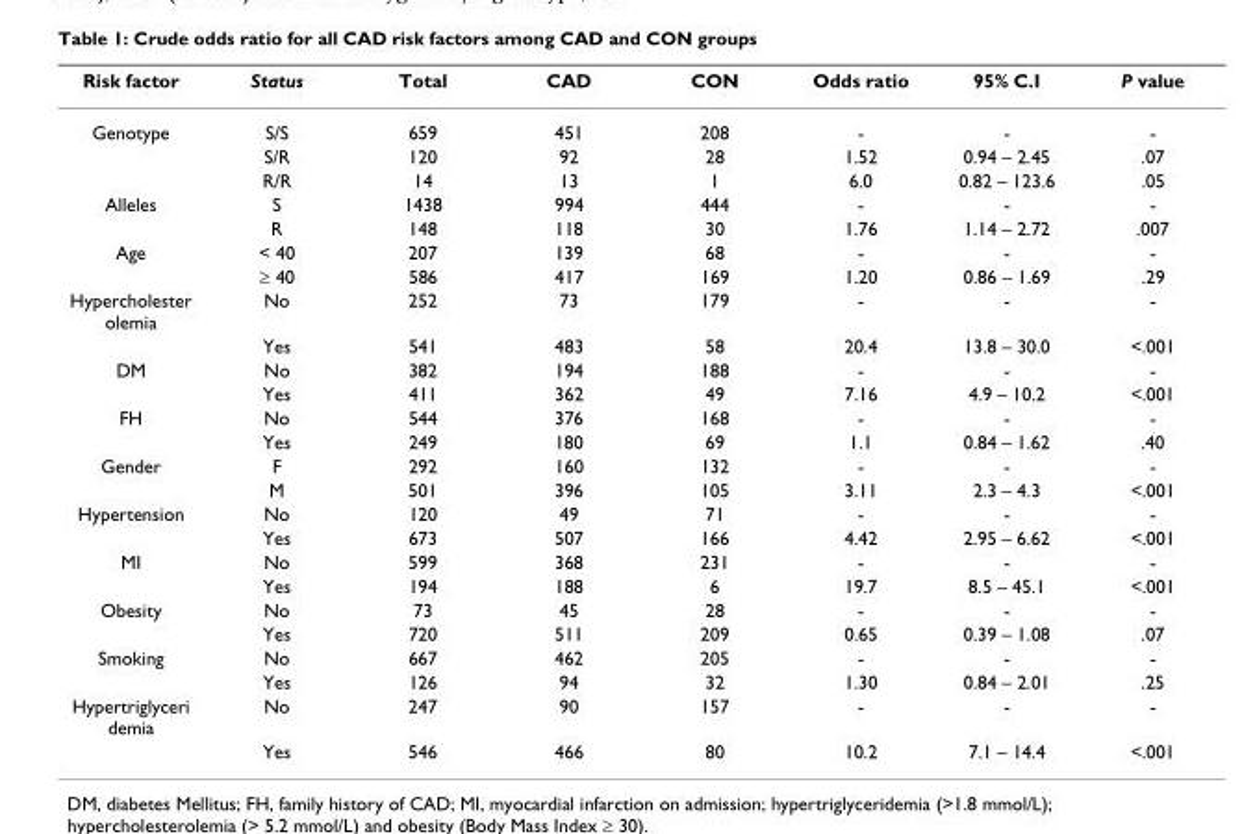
<table><thead><tr><td>Risk factor</td><td>Status</td><td>Total</td><td>CAD</td><td>CON</td><td>Odds ratio</td><td>95% C.I</td><td>P value</td></tr></thead><tbody><tr><td rowspan="3">Genotype</td><td>S/S</td><td>659</td><td>451</td><td>208</td><td>-</td><td>-</td><td>-</td></tr><tr><td>S/R</td><td>120</td><td>92</td><td>28</td><td>1.52</td><td>0.94 – 2.45</td><td>.07</td></tr><tr><td>R/R</td><td>14</td><td>13</td><td>1</td><td>6.0</td><td>0.82 – 123.6</td><td>.05</td></tr><tr><td rowspan="2">Alleles</td><td>S</td><td>1438</td><td>994</td><td>444</td><td>-</td><td>-</td><td>-</td></tr><tr><td>R</td><td>148</td><td>118</td><td>30</td><td>1.76</td><td>1.14 – 2.72</td><td>.007</td></tr><tr><td rowspan="2">Age</td><td>&lt; 40</td><td>207</td><td>139</td><td>68</td><td>-</td><td>-</td><td>-</td></tr><tr><td>≥ 40</td><td>586</td><td>417</td><td>169</td><td>1.20</td><td>0.86 – 1.69</td><td>.29</td></tr><tr><td rowspan="2">Hypercholester olemia</td><td>No</td><td>252</td><td>73</td><td>179</td><td>-</td><td>-</td><td>-</td></tr><tr><td>Yes</td><td>541</td><td>483</td><td>58</td><td>20.4</td><td>13.8 – 30.0</td><td>&lt;.001</td></tr><tr><td rowspan="2">DM</td><td>No</td><td>382</td><td>194</td><td>188</td><td>-</td><td>-</td><td>-</td></tr><tr><td>Yes</td><td>411</td><td>362</td><td>49</td><td>7.16</td><td>4.9 – 10.2</td><td>&lt;.001</td></tr><tr><td rowspan="2">FH</td><td>No</td><td>544</td><td>376</td><td>168</td><td>-</td><td>-</td><td>-</td></tr><tr><td>Yes</td><td>249</td><td>180</td><td>69</td><td>1.1</td><td>0.84 – 1.62</td><td>.40</td></tr><tr><td rowspan="2">Gender</td><td>F</td><td>292</td><td>160</td><td>132</td><td>-</td><td>-</td><td>-</td></tr><tr><td>M</td><td>501</td><td>396</td><td>105</td><td>3.11</td><td>2.3 – 4.3</td><td>&lt;.001</td></tr><tr><td rowspan="2">Hypertension</td><td>No</td><td>120</td><td>49</td><td>71</td><td>-</td><td>-</td><td>-</td></tr><tr><td>Yes</td><td>673</td><td>507</td><td>166</td><td>4.42</td><td>2.95 – 6.62</td><td>&lt;.001</td></tr><tr><td rowspan="2">MI</td><td>No</td><td>599</td><td>368</td><td>231</td><td>-</td><td>-</td><td>-</td></tr><tr><td>Yes</td><td>194</td><td>188</td><td>6</td><td>19.7</td><td>8.5 – 45.1</td><td>&lt;.001</td></tr><tr><td rowspan="2">Obesity</td><td>No</td><td>73</td><td>45</td><td>28</td><td>-</td><td>-</td><td>-</td></tr><tr><td>Yes</td><td>720</td><td>511</td><td>209</td><td>0.65</td><td>0.39 – 1.08</td><td>.07</td></tr><tr><td rowspan="2">Smoking</td><td>No</td><td>667</td><td>462</td><td>205</td><td>-</td><td>-</td><td>-</td></tr><tr><td>Yes</td><td>126</td><td>94</td><td>32</td><td>1.30</td><td>0.84 – 2.01</td><td>.25</td></tr><tr><td rowspan="2">Hypertriglyceri demia</td><td>No</td><td>247</td><td>90</td><td>157</td><td>-</td><td>-</td><td>-</td></tr><tr><td>Yes</td><td>546</td><td>466</td><td>80</td><td>10.2</td><td>7.1 – 14.4</td><td>&lt;.001</td></tr></tbody></table>